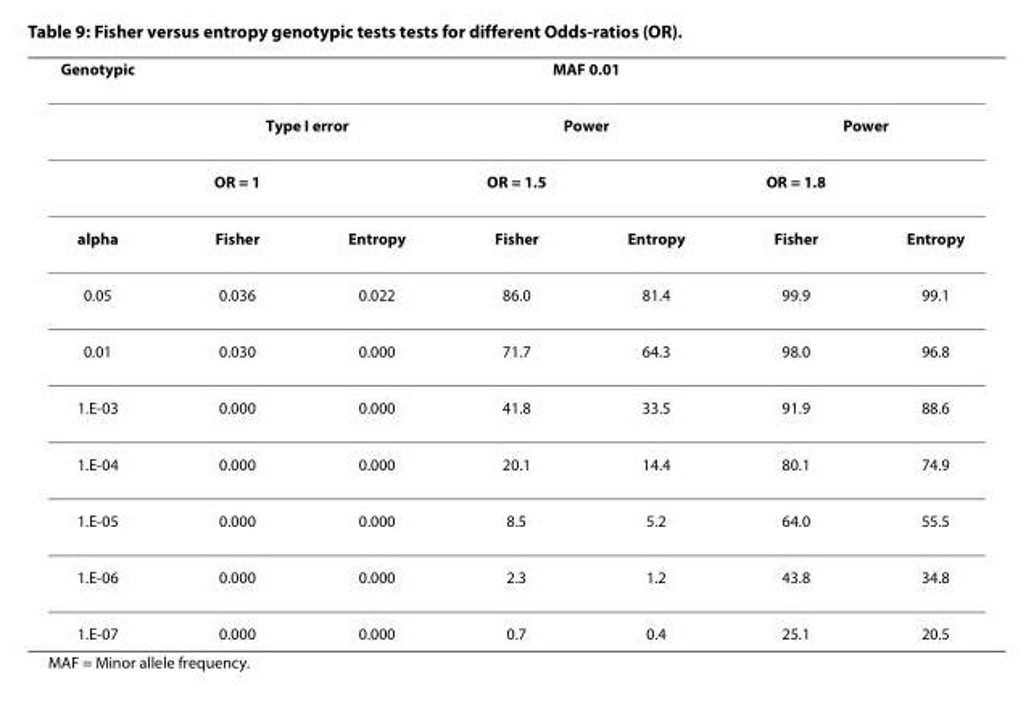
<table><thead><tr><td rowspan="3">Genotypic</td><td colspan="6">MAF 0.01</td></tr><tr><td colspan="2">Type I error</td><td colspan="2">Power</td><td colspan="2">Power</td></tr><tr><td>OR = 1</td><td></td><td>OR = 1.5</td><td></td><td>OR = 1.8</td><td></td></tr></thead><tbody><tr><td>alpha</td><td>Fisher</td><td>Entropy</td><td>Fisher</td><td>Entropy</td><td>Fisher</td><td>Entropy</td></tr><tr><td>0.05</td><td>0.036</td><td>0.022</td><td>86.0</td><td>81.4</td><td>99.9</td><td>99.1</td></tr><tr><td>0.01</td><td>0.030</td><td>0.000</td><td>71.7</td><td>64.3</td><td>98.0</td><td>96.8</td></tr><tr><td>1.E-03</td><td>0.000</td><td>0.000</td><td>41.8</td><td>33.5</td><td>91.9</td><td>88.6</td></tr><tr><td>1.E-04</td><td>0.000</td><td>0.000</td><td>20.1</td><td>14.4</td><td>80.1</td><td>74.9</td></tr><tr><td>1.E-05</td><td>0.000</td><td>0.000</td><td>8.5</td><td>5.2</td><td>64.0</td><td>55.5</td></tr><tr><td>1.E-06</td><td>0.000</td><td>0.000</td><td>2.3</td><td>1.2</td><td>43.8</td><td>34.8</td></tr><tr><td>1.E-07</td><td>0.000</td><td>0.000</td><td>0.7</td><td>0.4</td><td>25.1</td><td>20.5</td></tr></tbody></table>